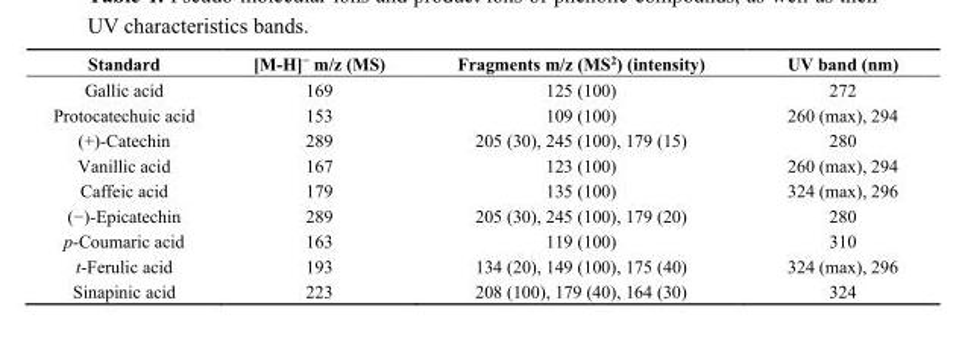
<table><thead><tr><td>Standard</td><td>[M-H]<sup>−</sup> m/z (MS)</td><td>Fragments m/z (MS<sup>2</sup>) (intensity)</td><td>UV band (nm)</td></tr></thead><tbody><tr><td>Gallic acid</td><td>169</td><td>125 (100)</td><td>272</td></tr><tr><td>Protocatechuic acid</td><td>153</td><td>109 (100)</td><td>260 (max), 294</td></tr><tr><td>(+)-Catechin</td><td>289</td><td>205 (30), 245 (100), 179 (15)</td><td>280</td></tr><tr><td>Vanillic acid</td><td>167</td><td>123 (100)</td><td>260 (max), 294</td></tr><tr><td>Caffeic acid</td><td>179</td><td>135 (100)</td><td>324 (max), 296</td></tr><tr><td>(−)-Epicatechin</td><td>289</td><td>205 (30), 245 (100), 179 (20)</td><td>280</td></tr><tr><td>p-Coumaric acid</td><td>163</td><td>119 (100)</td><td>310</td></tr><tr><td>t-Ferulic acid</td><td>193</td><td>134 (20), 149 (100), 175 (40)</td><td>324 (max), 296</td></tr><tr><td>Sinapinic acid</td><td>223</td><td>208 (100), 179 (40), 164 (30)</td><td>324</td></tr></tbody></table>